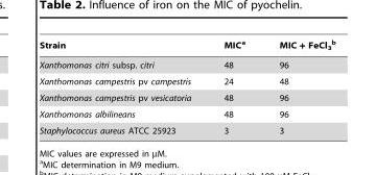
<table><thead><tr><td>Strain</td><td>MIC<sup>a</sup></td><td>MIC + FeCl<sub>3</sub> b</td></tr></thead><tbody><tr><td>Xanthomonas citri subsp. citri</td><td>48</td><td>96</td></tr><tr><td>Xanthomonas campestris pv campestris</td><td>24</td><td>48</td></tr><tr><td>Xanthomonas campestris pv vesicatoria</td><td>48</td><td>96</td></tr><tr><td>Xanthomonas albilineans</td><td>48</td><td>96</td></tr><tr><td>Staphylococcus aureus ATCC 25923</td><td>3</td><td>3</td></tr></tbody></table>